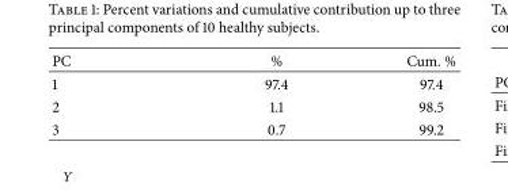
<table><thead><tr><td>PC</td><td>%</td><td>Cum. %</td></tr></thead><tbody><tr><td>1</td><td>97.4</td><td>97.4</td></tr><tr><td>2</td><td>1.1</td><td>98.5</td></tr><tr><td>3</td><td>0.7</td><td>99.2</td></tr></tbody></table>